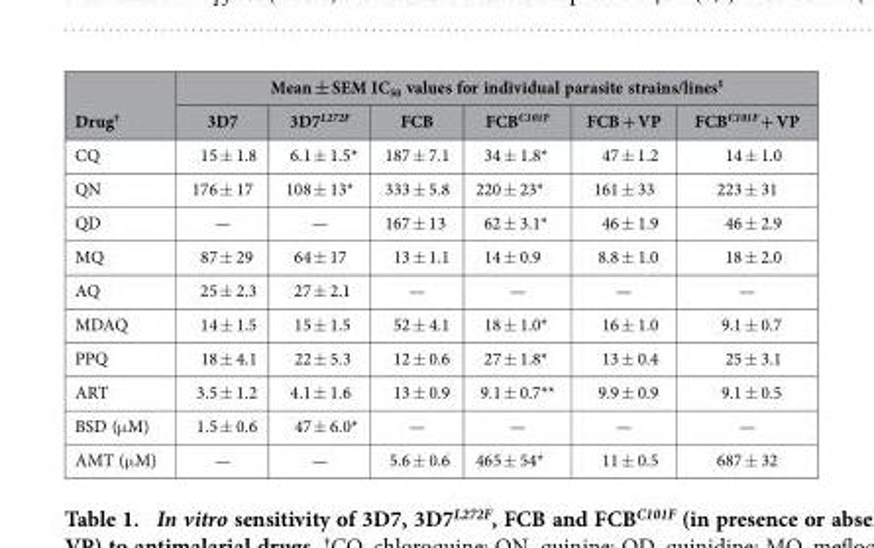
<table><thead><tr><td rowspan="2">Drug†</td><td colspan="6">Mean ± SEM IC<sub>50</sub> values for individual parasite strains/lines‡</td></tr><tr><td>3D7</td><td>3D7<sup>L272F</sup></td><td>FCB</td><td>FCB<sup>C101F</sup></td><td>FCB + VP</td><td>FCB<sup>C101F</sup> + VP</td></tr></thead><tbody><tr><td>CQ</td><td>15 ± 1.8</td><td>6.1 ± 1.5*</td><td>187 ± 7.1</td><td>34 ± 1.8*</td><td>47 ± 1.2</td><td>14 ± 1.0</td></tr><tr><td>QN</td><td>176 ± 17</td><td>108 ± 13*</td><td>333 ± 5.8</td><td>220 ± 23*</td><td>161 ± 33</td><td>223 ± 31</td></tr><tr><td>QD</td><td>—</td><td>—</td><td>167 ± 13</td><td>62 ± 3.1*</td><td>46 ± 1.9</td><td>46 ± 2.9</td></tr><tr><td>MQ</td><td>87 ± 29</td><td>64 ± 17</td><td>13 ± 1.1</td><td>14 ± 0.9</td><td>8.8 ± 1.0</td><td>18 ± 2.0</td></tr><tr><td>AQ</td><td>25 ± 2.3</td><td>27 ± 2.1</td><td>—</td><td>—</td><td>—</td><td>—</td></tr><tr><td>MDAQ</td><td>14 ± 1.5</td><td>15 ± 1.5</td><td>52 ± 4.1</td><td>18 ± 1.0*</td><td>16 ± 1.0</td><td>9.1 ± 0.7</td></tr><tr><td>PPQ</td><td>18 ± 4.1</td><td>22 ± 5.3</td><td>12 ± 0.6</td><td>27 ± 1.8*</td><td>13 ± 0.4</td><td>25 ± 3.1</td></tr><tr><td>ART</td><td>3.5 ± 1.2</td><td>4.1 ± 1.6</td><td>13 ± 0.9</td><td>9.1 ± 0.7**</td><td>9.9 ± 0.9</td><td>9.1 ± 0.5</td></tr><tr><td>BSD (μ M)</td><td>1.5 ± 0.6</td><td>47 ± 6.0*</td><td>—</td><td>—</td><td>—</td><td>—</td></tr><tr><td>AMT (μ M)</td><td>—</td><td>—</td><td>5.6 ± 0.6</td><td>465 ± 54*</td><td>11 ± 0.5</td><td>687 ± 32</td></tr></tbody></table>